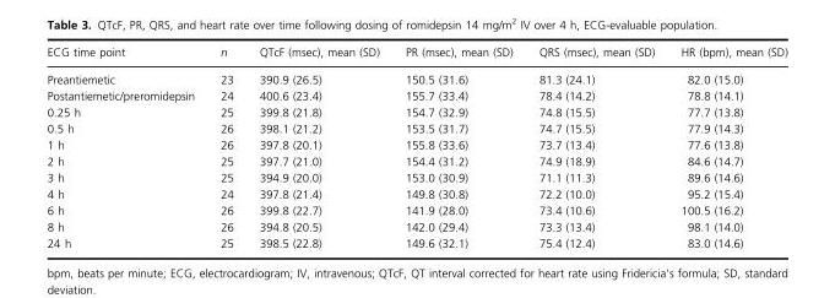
<table><thead><tr><td>ECG time point</td><td>n</td><td>QTcF (msec), mean (SD)</td><td>PR (msec), mean (SD)</td><td>QRS (msec), mean (SD)</td><td>HR (bpm), mean (SD)</td></tr></thead><tbody><tr><td>Preantiemetic</td><td>23</td><td>390.9 (26.5)</td><td>150.5 (31.6)</td><td>81.3 (24.1)</td><td>82.0 (15.0)</td></tr><tr><td>Postantiemetic/preromidepsin</td><td>24</td><td>400.6 (23.4)</td><td>155.7 (33.4)</td><td>78.4 (14.2)</td><td>78.8 (14.1)</td></tr><tr><td>0.25 h</td><td>25</td><td>399.8 (21.8)</td><td>154.7 (32.9)</td><td>74.8 (15.5)</td><td>77.7 (13.8)</td></tr><tr><td>0.5 h</td><td>26</td><td>398.1 (21.2)</td><td>153.5 (31.7)</td><td>74.7 (15.5)</td><td>77.9 (14.3)</td></tr><tr><td>1 h</td><td>26</td><td>397.8 (20.1)</td><td>155.8 (33.6)</td><td>73.7 (13.4)</td><td>77.6 (13.8)</td></tr><tr><td>2 h</td><td>25</td><td>397.7 (21.0)</td><td>154.4 (31.2)</td><td>74.9 (18.9)</td><td>84.6 (14.7)</td></tr><tr><td>3 h</td><td>25</td><td>394.9 (20.0)</td><td>153.0 (30.9)</td><td>71.1 (11.3)</td><td>89.6 (14.6)</td></tr><tr><td>4 h</td><td>24</td><td>397.8 (21.4)</td><td>149.8 (30.8)</td><td>72.2 (10.0)</td><td>95.2 (15.4)</td></tr><tr><td>6 h</td><td>26</td><td>399.8 (22.7)</td><td>141.9 (28.0)</td><td>73.4 (10.6)</td><td>100.5 (16.2)</td></tr><tr><td>8 h</td><td>26</td><td>394.8 (20.5)</td><td>142.0 (29.4)</td><td>73.3 (13.4)</td><td>98.1 (14.0)</td></tr><tr><td>24 h</td><td>25</td><td>398.5 (22.8)</td><td>149.6 (32.1)</td><td>75.4 (12.4)</td><td>83.0 (14.6)</td></tr></tbody></table>